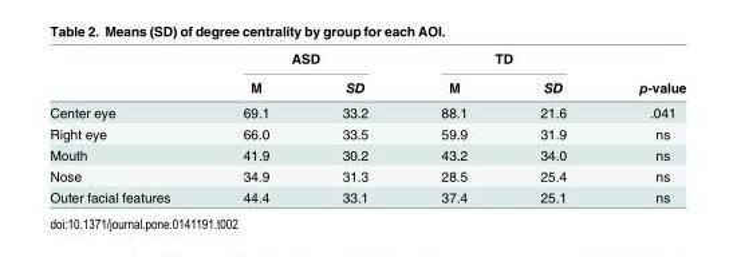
<table><thead><tr><td rowspan="2"></td><td colspan="2">ASD</td><td colspan="2">TD</td><td rowspan="2">p-value</td></tr><tr><td>M</td><td>SD</td><td>M</td><td>SD</td></tr></thead><tbody><tr><td>Center eye</td><td>69.1</td><td>33.2</td><td>88.1</td><td>21.6</td><td>.041</td></tr><tr><td>Right eye</td><td>66.0</td><td>33.5</td><td>59.9</td><td>31.9</td><td>ns</td></tr><tr><td>Mouth</td><td>41.9</td><td>30.2</td><td>43.2</td><td>34.0</td><td>ns</td></tr><tr><td>Nose</td><td>34.9</td><td>31.3</td><td>28.5</td><td>25.4</td><td>ns</td></tr><tr><td>Outer facial features</td><td>44.4</td><td>33.1</td><td>37.4</td><td>25.1</td><td>ns</td></tr></tbody></table>